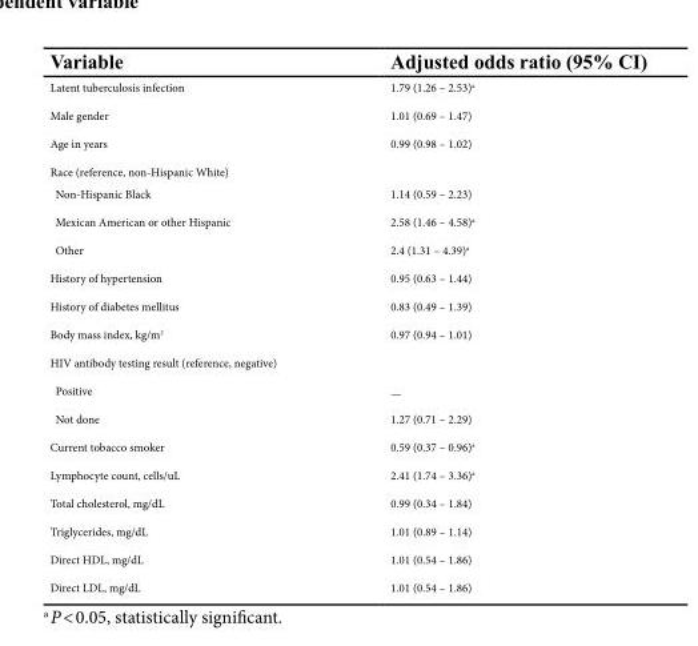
<table><thead><tr><td>Variable</td><td>Adjusted odds ratio (95% CI)</td></tr></thead><tbody><tr><td>Latent tuberculosis infection</td><td>1.79 (1.26 – 2.53)<sup>a</sup></td></tr><tr><td>Male gender</td><td>1.01 (0.69 – 1.47)</td></tr><tr><td>Age in years</td><td>0.99 (0.98 – 1.02)</td></tr><tr><td colspan="2">Race (reference, non-Hispanic White)</td></tr><tr><td>Non-Hispanic Black</td><td>1.14 (0.59 – 2.23)</td></tr><tr><td>Mexican American or other Hispanic</td><td>2.58 (1.46 – 4.58)<sup>a</sup></td></tr><tr><td>Other</td><td>2.4 (1.31 – 4.39)<sup>a</sup></td></tr><tr><td>History of hypertension</td><td>0.95 (0.63 – 1.44)</td></tr><tr><td>History of diabetes mellitus</td><td>0.83 (0.49 – 1.39)</td></tr><tr><td>Body mass index, kg/m<sup>2</sup></td><td>0.97 (0.94 – 1.01)</td></tr><tr><td colspan="2">HIV antibody testing result (reference, negative)</td></tr><tr><td>Positive</td><td>—</td></tr><tr><td>Not done</td><td>1.27 (0.71 – 2.29)</td></tr><tr><td>Current tobacco smoker</td><td>0.59 (0.37 – 0.96)<sup>a</sup></td></tr><tr><td>Lymphocyte count, cells/uL</td><td>2.41 (1.74 – 3.36)<sup>a</sup></td></tr><tr><td>Total cholesterol, mg/dL</td><td>0.99 (0.34 – 1.84)</td></tr><tr><td>Triglycerides, mg/dL</td><td>1.01 (0.89 – 1.14)</td></tr><tr><td>Direct HDL, mg/dL</td><td>1.01 (0.54 – 1.86)</td></tr><tr><td>Direct LDL, mg/dL</td><td>1.01 (0.54 – 1.86)</td></tr></tbody></table>